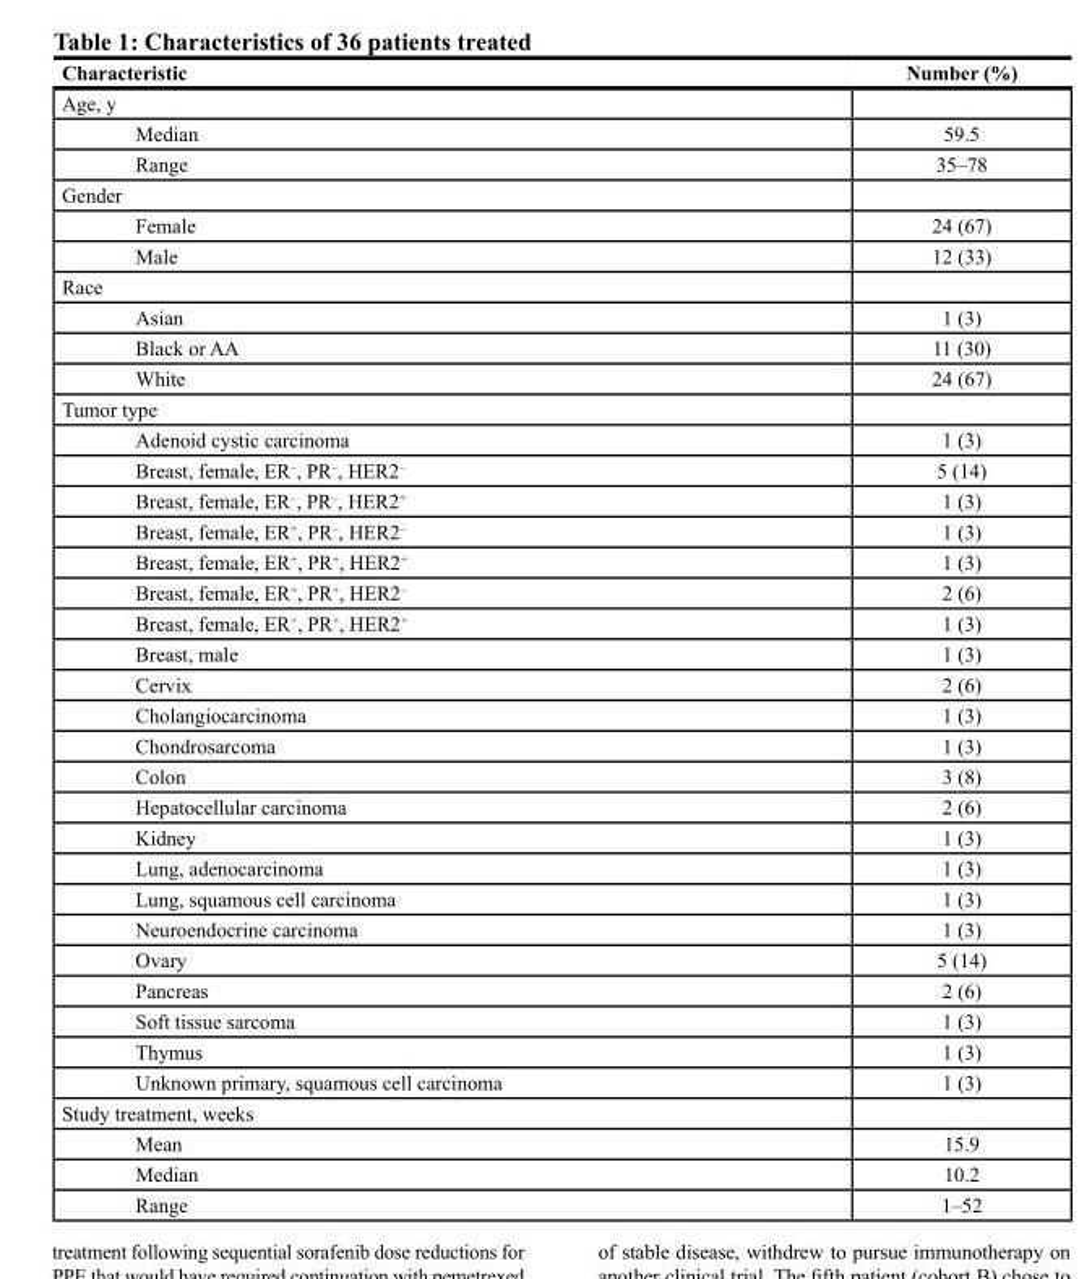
<table><thead><tr><td>Characteristic</td><td>Number (%)</td></tr></thead><tbody><tr><td colspan="2">Age, y</td></tr><tr><td>Median</td><td>59.5</td></tr><tr><td>Range</td><td>35–78</td></tr><tr><td colspan="2">Gender</td></tr><tr><td>Female</td><td>24 (67)</td></tr><tr><td>Male</td><td>12 (33)</td></tr><tr><td colspan="2">Race</td></tr><tr><td>Asian</td><td>1 (3)</td></tr><tr><td>Black or AA</td><td>11 (30)</td></tr><tr><td>White</td><td>24 (67)</td></tr><tr><td colspan="2">Tumor type</td></tr><tr><td>Adenoid cystic carcinoma</td><td>1 (3)</td></tr><tr><td>Breast, female, ER<sup>–</sup>, PR<sup>–</sup>, HER2<sup>–</sup></td><td>5 (14)</td></tr><tr><td>Breast, female, ER<sup>–</sup>, PR<sup>–</sup>, HER2<sup>+</sup></td><td>1 (3)</td></tr><tr><td>Breast, female, ER<sup>+</sup>, PR<sup>–</sup>, HER2<sup>–</sup></td><td>1 (3)</td></tr><tr><td>Breast, female, ER<sup>+</sup>, PR<sup>+</sup>, HER2<sup>+</sup></td><td>1 (3)</td></tr><tr><td>Breast, female, ER<sup>+</sup>, PR<sup>+</sup>, HER2<sup>–</sup></td><td>2 (6)</td></tr><tr><td>Breast, female, ER<sup>+</sup>, PR<sup>+</sup>, HER2<sup>+</sup></td><td>1 (3)</td></tr><tr><td>Breast, male</td><td>1 (3)</td></tr><tr><td>Cervix</td><td>2 (6)</td></tr><tr><td>Cholangiocarcinoma</td><td>1 (3)</td></tr><tr><td>Chondrosarcoma</td><td>1 (3)</td></tr><tr><td>Colon</td><td>3 (8)</td></tr><tr><td>Hepatocellular carcinoma</td><td>2 (6)</td></tr><tr><td>Kidney</td><td>1 (3)</td></tr><tr><td>Lung, adenocarcinoma</td><td>1 (3)</td></tr><tr><td>Lung, squamous cell carcinoma</td><td>1 (3)</td></tr><tr><td>Neuroendocrine carcinoma</td><td>1 (3)</td></tr><tr><td>Ovary</td><td>5 (14)</td></tr><tr><td>Pancreas</td><td>2 (6)</td></tr><tr><td>Soft tissue sarcoma</td><td>1 (3)</td></tr><tr><td>Thymus</td><td>1 (3)</td></tr><tr><td>Unknown primary, squamous cell carcinoma</td><td>1 (3)</td></tr><tr><td colspan="2">Study treatment, weeks</td></tr><tr><td>Mean</td><td>15.9</td></tr><tr><td>Median</td><td>10.2</td></tr><tr><td>Range</td><td>1–52</td></tr></tbody></table>